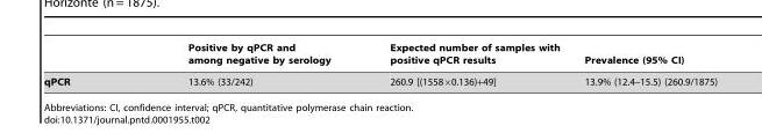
<table><thead><tr><td></td><td>Positive by qPCR and among negative by serology</td><td>Expected number of samples with positive qPCR results</td><td>Prevalence (95% CI)</td></tr></thead><tbody><tr><td>qPCR</td><td>13.6% (33/242)</td><td>260.9 [(1558×0.136)+49]</td><td>13.9% (12.4–15.5) (260.9/1875)</td></tr></tbody></table>